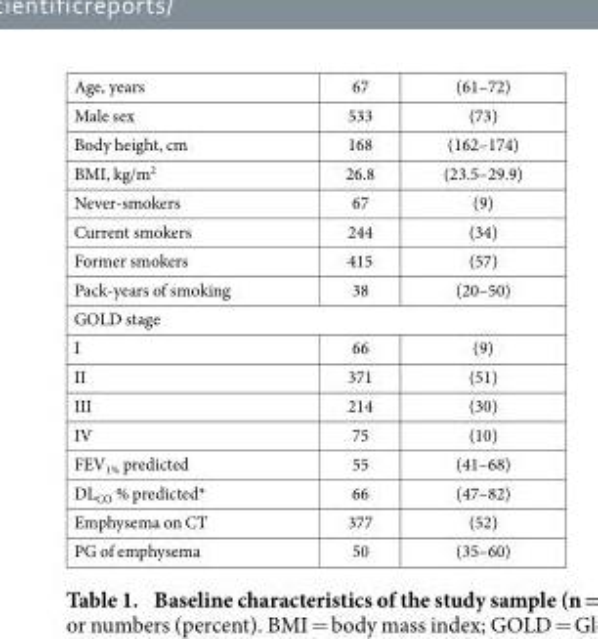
<table><tbody><tr><td>Age, years</td><td>67</td><td>(61–72)</td></tr><tr><td>Male sex</td><td>533</td><td>(73)</td></tr><tr><td>Body height, cm</td><td>168</td><td>(162–174)</td></tr><tr><td>BMI, kg/m<sup>2</sup></td><td>26.8</td><td>(23.5–29.9)</td></tr><tr><td>Never-smokers</td><td>67</td><td>(9)</td></tr><tr><td>Current smokers</td><td>244</td><td>(34)</td></tr><tr><td>Former smokers</td><td>415</td><td>(57)</td></tr><tr><td>Pack-years of smoking</td><td>38</td><td>(20–50)</td></tr><tr><td colspan="3">GOLD stage</td></tr><tr><td>I</td><td>66</td><td>(9)</td></tr><tr><td>II</td><td>371</td><td>(51)</td></tr><tr><td>III</td><td>214</td><td>(30)</td></tr><tr><td>IV</td><td>75</td><td>(10)</td></tr><tr><td>FEV<sub>1%</sub> predicted</td><td>55</td><td>(41–68)</td></tr><tr><td>DL<sub>CO</sub> % predicted*</td><td>66</td><td>(47–82)</td></tr><tr><td>Emphysema on CT</td><td>377</td><td>(52)</td></tr><tr><td>PG of emphysema</td><td>50</td><td>(35–60)</td></tr></tbody></table>